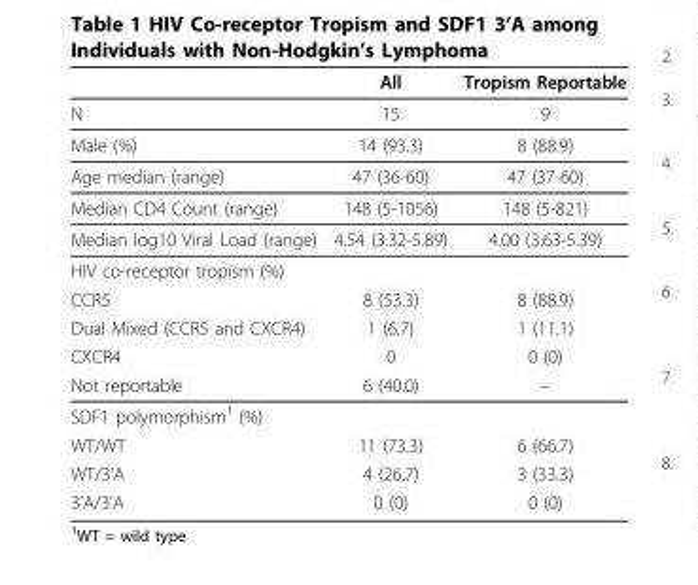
<table><thead><tr><td></td><td>All</td><td>Tropism Reportable</td></tr></thead><tbody><tr><td>N</td><td>15</td><td>9</td></tr><tr><td>Male (%)</td><td>14 (93.3)</td><td>8 (88.9)</td></tr><tr><td>Age median (range)</td><td>47 (36-60)</td><td>47 (37-60)</td></tr><tr><td>Median CD4 Count (range)</td><td>148 (5-1056)</td><td>148 (5-821)</td></tr><tr><td>Median log10 Viral Load (range)</td><td>4.54 (3.32-5.89)</td><td>4.00 (3.63-5.39)</td></tr><tr><td colspan="3">HIV co-receptor tropism (%)</td></tr><tr><td>CCR5</td><td>8 (53.3)</td><td>8 (88.9)</td></tr><tr><td>Dual Mixed (CCR5 and CXCR4)</td><td>1 (6.7)</td><td>1 (11.1)</td></tr><tr><td>CXCR4</td><td>0</td><td>0 (0)</td></tr><tr><td>Not reportable</td><td>6 (40.0)</td><td>–</td></tr><tr><td colspan="3">SDF1 polymorphism<sup>1</sup> (%)</td></tr><tr><td>WT/WT</td><td>11 (73.3)</td><td>6 (66.7)</td></tr><tr><td>WT/3’A</td><td>4 (26.7)</td><td>3 (33.3)</td></tr><tr><td>3’A/3’A</td><td>0 (0)</td><td>0 (0)</td></tr></tbody></table>